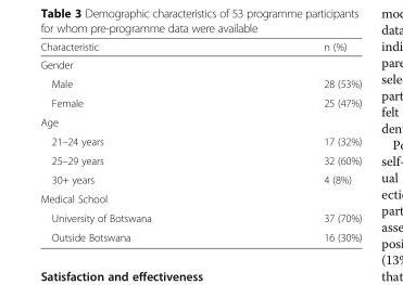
<table><thead><tr><td>Characteristic</td><td>n (%)</td></tr></thead><tbody><tr><td colspan="2">Gender</td></tr><tr><td>Male</td><td>28 (53%)</td></tr><tr><td>Female</td><td>25 (47%)</td></tr><tr><td colspan="2">Age</td></tr><tr><td>21–24 years</td><td>17 (32%)</td></tr><tr><td>25–29 years</td><td>32 (60%)</td></tr><tr><td>30+ years</td><td>4 (8%)</td></tr><tr><td colspan="2">Medical School</td></tr><tr><td>University of Botswana</td><td>37 (70%)</td></tr><tr><td>Outside Botswana</td><td>16 (30%)</td></tr></tbody></table>